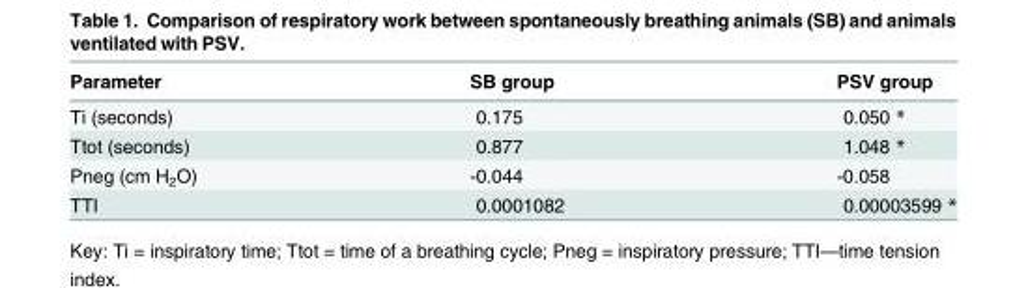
<table><thead><tr><td>Parameter</td><td>SB group</td><td>PSV group</td></tr></thead><tbody><tr><td>Ti (seconds)</td><td>0.175</td><td>0.050 *</td></tr><tr><td>Ttot (seconds)</td><td>0.877</td><td>1.048 *</td></tr><tr><td>Pneg (cm H<sub>2</sub>O)</td><td>-0.044</td><td>-0.058</td></tr><tr><td>TTI</td><td>0.0001082</td><td>0.00003599 *</td></tr></tbody></table>